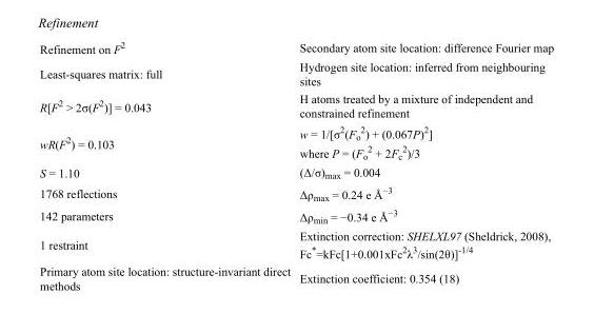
<table><tbody><tr><td>Refinement on F<sup>2</sup></td><td>Secondary atom site location: difference Fourier map</td></tr><tr><td>Least-squares matrix: full</td><td>Hydrogen site location: inferred from neighbouring sites</td></tr><tr><td>R[F<sup>2</sup> &gt; 2σ(F<sup>2</sup>)] = 0.043</td><td>H atoms treated by a mixture of independent and constrained refinement</td></tr><tr><td>wR(F<sup>2</sup>) = 0.103</td><td>w = 1/[σ<sup>2</sup>(F<sub>o</sub> <sup>2</sup>) + (0.067P)<sup>2</sup>] where P = (F<sub>o</sub> <sup>2</sup> + 2F<sub>c</sub> <sup>2</sup>)/3</td></tr><tr><td>S = 1.10</td><td>(Δ/σ)<sub>max</sub> = 0.004</td></tr><tr><td>1768 reflections</td><td>Δρ<sub>max</sub> = 0.24 e Å<sup>−3</sup></td></tr><tr><td>142 parameters</td><td>Δρ<sub>min</sub> = −0.34 e Å<sup>−3</sup></td></tr><tr><td>1 restraint</td><td>Extinction correction: SHELXL97 (Sheldrick, 2008), Fc*=kFc[1+0.001xFc<sup>2</sup>λ<sup>3</sup>/sin(2θ)]<sup>-1/4</sup></td></tr><tr><td>Primary atom site location: structure-invariant direct methods</td><td>Extinction coefficient: 0.354 (18)</td></tr></tbody></table>